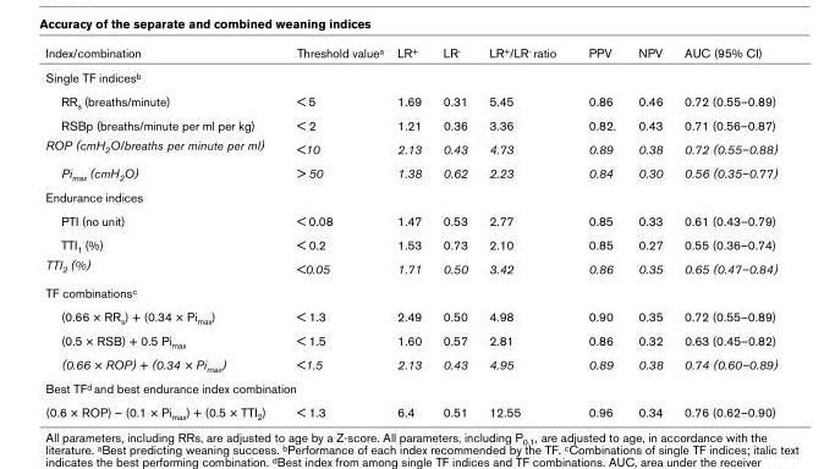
<table><thead><tr><td>Index/combination</td><td>Threshold valuea</td><td>LR+</td><td>LR-</td><td>LR+/LR- ratio</td><td>PPV</td><td>NPV</td><td>AUC (95% CI)</td></tr></thead><tbody><tr><td colspan="8">Single TF indicesb</td></tr><tr><td>RRs (breaths/minute)</td><td>&lt; 5</td><td>1.69</td><td>0.31</td><td>5.45</td><td>0.86</td><td>0.46</td><td>0.72 (0.55–0.89)</td></tr><tr><td>RSBp (breaths/minute per ml per kg)</td><td>&lt; 2</td><td>1.21</td><td>0.36</td><td>3.36</td><td>0.82.</td><td>0.43</td><td>0.71 (0.56–0.87)</td></tr><tr><td>ROP (cmH2O/breaths per minute per ml)</td><td>&lt;10</td><td>2.13</td><td>0.43</td><td>4.73</td><td>0.89</td><td>0.38</td><td>0.72 (0.55–0.88)</td></tr><tr><td>Pimax (cmH2O)</td><td>&gt; 50</td><td>1.38</td><td>0.62</td><td>2.23</td><td>0.84</td><td>0.30</td><td>0.56 (0.35–0.77)</td></tr><tr><td colspan="8">Endurance indices</td></tr><tr><td>PTI (no unit)</td><td>&lt; 0.08</td><td>1.47</td><td>0.53</td><td>2.77</td><td>0.85</td><td>0.33</td><td>0.61 (0.43–0.79)</td></tr><tr><td>TTI1 (%)</td><td>&lt; 0.2</td><td>1.53</td><td>0.73</td><td>2.10</td><td>0.85</td><td>0.27</td><td>0.55 (0.36–0.74)</td></tr><tr><td>TTI2 (%)</td><td>&lt;0.05</td><td>1.71</td><td>0.50</td><td>3.42</td><td>0.86</td><td>0.35</td><td>0.65 (0.47–0.84)</td></tr><tr><td colspan="8">TF combinationsc</td></tr><tr><td>(0.66 × RRs) + (0.34 × Pimax)</td><td>&lt; 1.3</td><td>2.49</td><td>0.50</td><td>4.98</td><td>0.90</td><td>0.35</td><td>0.72 (0.55–0.89)</td></tr><tr><td>(0.5 × RSB) + 0.5 Pimax</td><td>&lt; 1.5</td><td>1.60</td><td>0.57</td><td>2.81</td><td>0.86</td><td>0.32</td><td>0.63 (0.45–0.82)</td></tr><tr><td>(0.66 × ROP) + (0.34 × Pimax)</td><td>&lt;1.5</td><td>2.13</td><td>0.43</td><td>4.95</td><td>0.89</td><td>0.38</td><td>0.74 (0.60–0.89)</td></tr><tr><td colspan="8">Best TFd and best endurance index combination</td></tr><tr><td>(0.6 × ROP) – (0.1 × Pimax) + (0.5 × TTI2)</td><td>&lt; 1.3</td><td>6.4</td><td>0.51</td><td>12.55</td><td>0.96</td><td>0.34</td><td>0.76 (0.62–0.90)</td></tr></tbody></table>